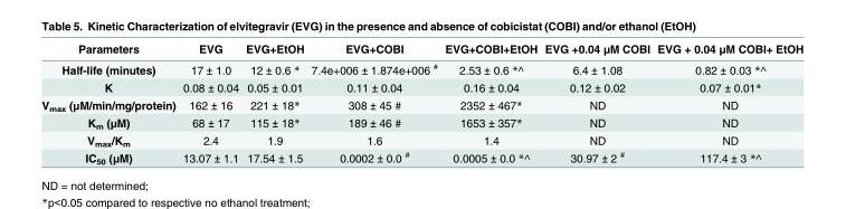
<table><thead><tr><td>Parameters</td><td>EVG</td><td>EVG+EtOH</td><td>EVG+COBI</td><td>EVG+COBI+EtOH</td><td>EVG +0.04 μM COBI</td><td>EVG + 0.04 μM COBI+ EtOH</td></tr></thead><tbody><tr><td>Half-life (minutes)</td><td>17 ± 1.0</td><td>12 ± 0.6 *</td><td>7.4e+006 ± 1.874e+006 <sup>#</sup></td><td>2.53 ± 0.6 *^</td><td>6.4 ± 1.08</td><td>0.82 ± 0.03 *^</td></tr><tr><td>K</td><td>0.08 ± 0.04</td><td>0.05 ± 0.01</td><td>0.11 ± 0.04</td><td>0.16 ± 0.04</td><td>0.12 ± 0.02</td><td>0.07 ± 0.01*</td></tr><tr><td>V<sub>max</sub> (μM/min/mg/protein)</td><td>162 ± 16</td><td>221 ± 18*</td><td>308 ± 45 #</td><td>2352 ± 467*</td><td>ND</td><td>ND</td></tr><tr><td>K<sub>m</sub> (μM)</td><td>68 ± 17</td><td>115 ± 18*</td><td>189 ± 46 #</td><td>1653 ± 357*</td><td>ND</td><td>ND</td></tr><tr><td>V<sub>max</sub>/K<sub>m</sub></td><td>2.4</td><td>1.9</td><td>1.6</td><td>1.4</td><td>ND</td><td>ND</td></tr><tr><td>IC<sub>50</sub> (μM)</td><td>13.07 ± 1.1</td><td>17.54 ± 1.5</td><td>0.0002 ± 0.0 <sup>#</sup></td><td>0.0005 ± 0.0 *^</td><td>30.97 ± 2 <sup>#</sup></td><td>117.4 ± 3 *^</td></tr></tbody></table>